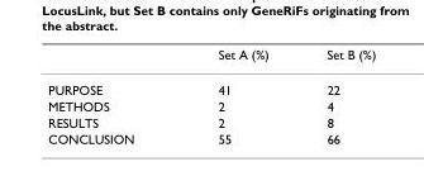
<table><thead><tr><td></td><td>Set A (%)</td><td>Set B (%)</td></tr></thead><tbody><tr><td>PURPOSE</td><td>41</td><td>22</td></tr><tr><td>METHODS</td><td>2</td><td>4</td></tr><tr><td>RESULTS</td><td>2</td><td>8</td></tr><tr><td>CONCLUSION</td><td>55</td><td>66</td></tr></tbody></table>